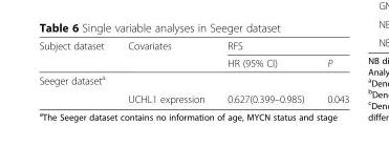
<table><thead><tr><td rowspan="2">Subject dataset</td><td rowspan="2">Covariates</td><td colspan="2">RFS</td></tr><tr><td>HR (95% Cl)</td><td>P</td></tr></thead><tbody><tr><td colspan="4">Seeger dataset<sup>a</sup></td></tr><tr><td></td><td>UCHL1 expression</td><td>0.627(0.399–0.985)</td><td>0.043</td></tr></tbody></table>